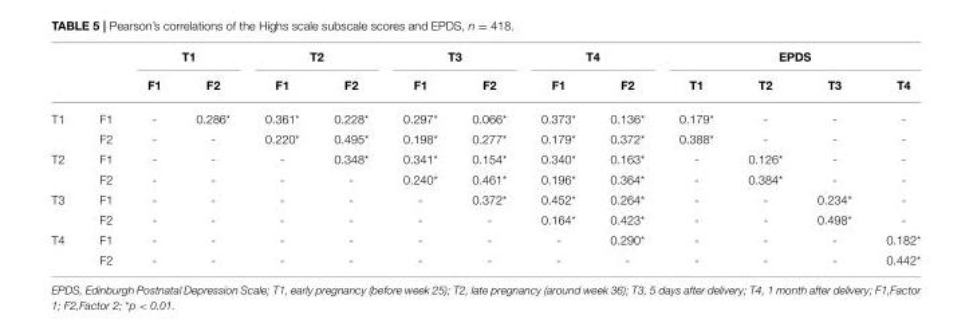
<table><thead><tr><td rowspan="2"></td><td rowspan="2"></td><td colspan="2">T1</td><td colspan="2">T2</td><td colspan="2">T3</td><td colspan="2">T4</td><td colspan="4">EPDS</td></tr><tr><td>F1</td><td>F2</td><td>F1</td><td>F2</td><td>F1</td><td>F2</td><td>F1</td><td>F2</td><td>T1</td><td>T2</td><td>T3</td><td>T4</td></tr></thead><tbody><tr><td rowspan="2">T1</td><td>F1</td><td>-</td><td>0.286*</td><td>0.361*</td><td>0.228*</td><td>0.297*</td><td>0.066*</td><td>0.373*</td><td>0.136*</td><td>0.179*</td><td>-</td><td>-</td><td>-</td></tr><tr><td>F2</td><td>-</td><td>-</td><td>0.220*</td><td>0.495*</td><td>0.198*</td><td>0.277*</td><td>0.179*</td><td>0.372*</td><td>0.388*</td><td>-</td><td>-</td><td>-</td></tr><tr><td rowspan="2">T2</td><td>F1</td><td>-</td><td>-</td><td>-</td><td>0.348*</td><td>0.341*</td><td>0.154*</td><td>0.340*</td><td>0.163*</td><td>-</td><td>0.126*</td><td>-</td><td>-</td></tr><tr><td>F2</td><td>-</td><td>-</td><td>-</td><td>-</td><td>0.240*</td><td>0.461*</td><td>0.196*</td><td>0.364*</td><td>-</td><td>0.384*</td><td>-</td><td>-</td></tr><tr><td rowspan="2">T3</td><td>F1</td><td>-</td><td>-</td><td>-</td><td>-</td><td>-</td><td>0.372*</td><td>0.452*</td><td>0.264*</td><td>-</td><td>-</td><td>0.234*</td><td>-</td></tr><tr><td>F2</td><td>-</td><td>-</td><td>-</td><td>-</td><td>-</td><td>-</td><td>0.164*</td><td>0.423*</td><td>-</td><td>-</td><td>0.498*</td><td>-</td></tr><tr><td rowspan="2">T4</td><td>F1</td><td>-</td><td>-</td><td>-</td><td>-</td><td>-</td><td>-</td><td>-</td><td>0.290*</td><td>-</td><td>-</td><td>-</td><td>0.182*</td></tr><tr><td>F2</td><td>-</td><td>-</td><td>-</td><td>-</td><td>-</td><td>-</td><td>-</td><td>-</td><td>-</td><td>-</td><td>-</td><td>0.442*</td></tr></tbody></table>